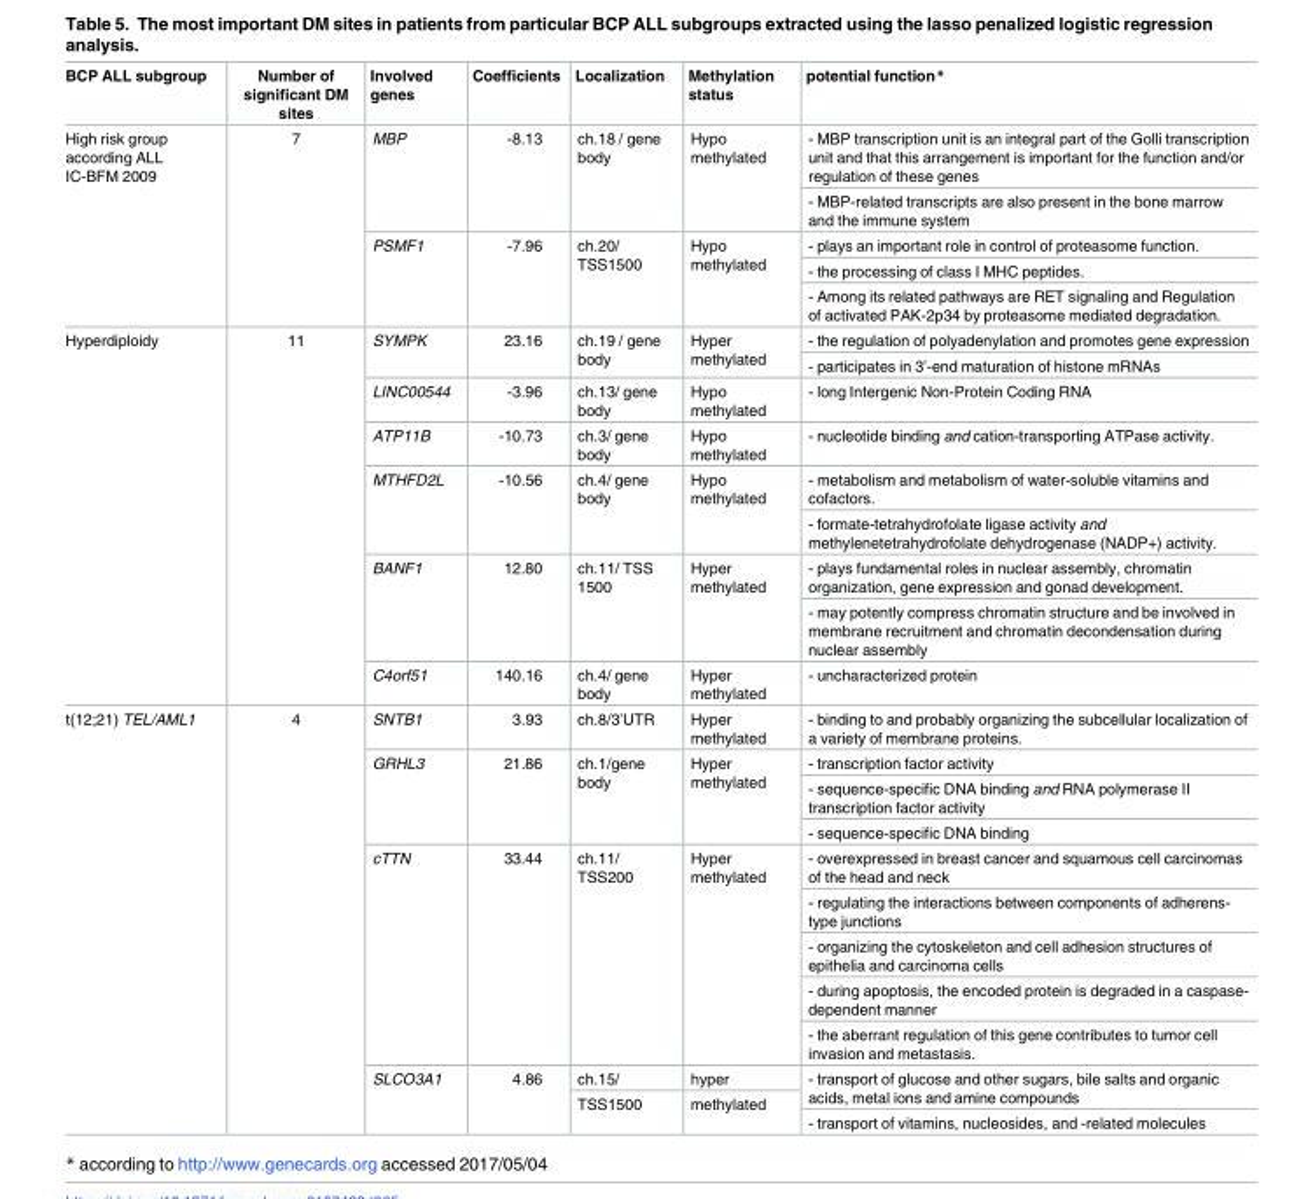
<table><thead><tr><td>BCP ALL subgroup</td><td>Number of significant DM sites</td><td>Involved genes</td><td>Coefficients</td><td>Localization</td><td>Methylation status</td><td>potential function*</td></tr></thead><tbody><tr><td rowspan="5">High risk group according ALL IC-BFM 2009</td><td rowspan="5">7</td><td rowspan="2">MBP</td><td rowspan="2">-8.13</td><td rowspan="2">ch.18 / gene body</td><td rowspan="2">Hypo methylated</td><td>- MBP transcription unit is an integral part of the Golli transcription unit and that this arrangement is important for the function and/or regulation of these genes</td></tr><tr><td>- MBP-related transcripts are also present in the bone marrow and the immune system</td></tr><tr><td rowspan="3">PSMF1</td><td rowspan="3">-7.96</td><td rowspan="3">ch.20/ TSS1500</td><td rowspan="3">Hypo methylated</td><td>- plays an important role in control of proteasome function.</td></tr><tr><td>- the processing of class I MHC peptides.</td></tr><tr><td>- Among its related pathways are RET signaling and Regulation of activated PAK-2p34 by proteasome mediated degradation.</td></tr><tr><td rowspan="9">Hyperdiploidy</td><td rowspan="9">11</td><td rowspan="2">SYMPK</td><td rowspan="2">23.16</td><td rowspan="2">ch.19 / gene body</td><td rowspan="2">Hyper methylated</td><td>- the regulation of polyadenylation and promotes gene expression</td></tr><tr><td>- participates in 3’-end maturation of histone mRNAs</td></tr><tr><td>LINC00544</td><td>-3.96</td><td>ch.13/ gene body</td><td>Hypo methylated</td><td>- long Intergenic Non-Protein Coding RNA</td></tr><tr><td>ATP11B</td><td>-10.73</td><td>ch.3/ gene body</td><td>Hypo methylated</td><td>- nucleotide binding and cation-transporting ATPase activity.</td></tr><tr><td rowspan="2">MTHFD2L</td><td rowspan="2">-10.56</td><td rowspan="2">ch.4/ gene body</td><td rowspan="2">Hypo methylated</td><td>- metabolism and metabolism of water-soluble vitamins and cofactors.</td></tr><tr><td>- formate-tetrahydrofolate ligase activity and methylenetetrahydrofolate dehydrogenase (NADP+) activity.</td></tr><tr><td rowspan="2">BANF1</td><td rowspan="2">12.80</td><td rowspan="2">ch.11/ TSS 1500</td><td rowspan="2">Hyper methylated</td><td>- plays fundamental roles in nuclear assembly, chromatin organization, gene expression and gonad development.</td></tr><tr><td>- may potently compress chromatin structure and be involved in membrane recruitment and chromatin decondensation during nuclear assembly</td></tr><tr><td>C4orf51</td><td>140.16</td><td>ch.4/ gene body</td><td>Hyper methylated</td><td>- uncharacterized protein</td></tr><tr><td rowspan="12">t(12;21) TEL/AML1</td><td rowspan="12">4</td><td>SNTB1</td><td>3.93</td><td>ch.8/3’UTR</td><td>Hyper methylated</td><td>- binding to and probably organizing the subcellular localization of a variety of membrane proteins.</td></tr><tr><td rowspan="3">GRHL3</td><td rowspan="3">21.86</td><td rowspan="3">ch.1/gene body</td><td rowspan="3">Hyper methylated</td><td>- transcription factor activity</td></tr><tr><td>- sequence-specific DNA binding and RNA polymerase II transcription factor activity</td></tr><tr><td>- sequence-specific DNA binding</td></tr><tr><td rowspan="5">cTTN</td><td rowspan="5">33.44</td><td rowspan="5">ch.11/ TSS200</td><td rowspan="5">Hyper methylated</td><td>- overexpressed in breast cancer and squamous cell carcinomas of the head and neck</td></tr><tr><td>- regulating the interactions between components of adherens- type junctions</td></tr><tr><td>- organizing the cytoskeleton and cell adhesion structures of epithelia and carcinoma cells</td></tr><tr><td>- during apoptosis, the encoded protein is degraded in a caspase- dependent manner</td></tr><tr><td>- the aberrant regulation of this gene contributes to tumor cell invasion and metastasis.</td></tr><tr><td rowspan="3">SLCO3A1</td><td rowspan="3">4.86</td><td>ch.15/</td><td>hyper</td><td rowspan="2">- transport of glucose and other sugars, bile salts and organic acids, metal ions and amine compounds</td></tr><tr><td rowspan="2">TSS1500</td><td rowspan="2">methylated</td></tr><tr><td>- transport of vitamins, nucleosides, and -related molecules</td></tr></tbody></table>